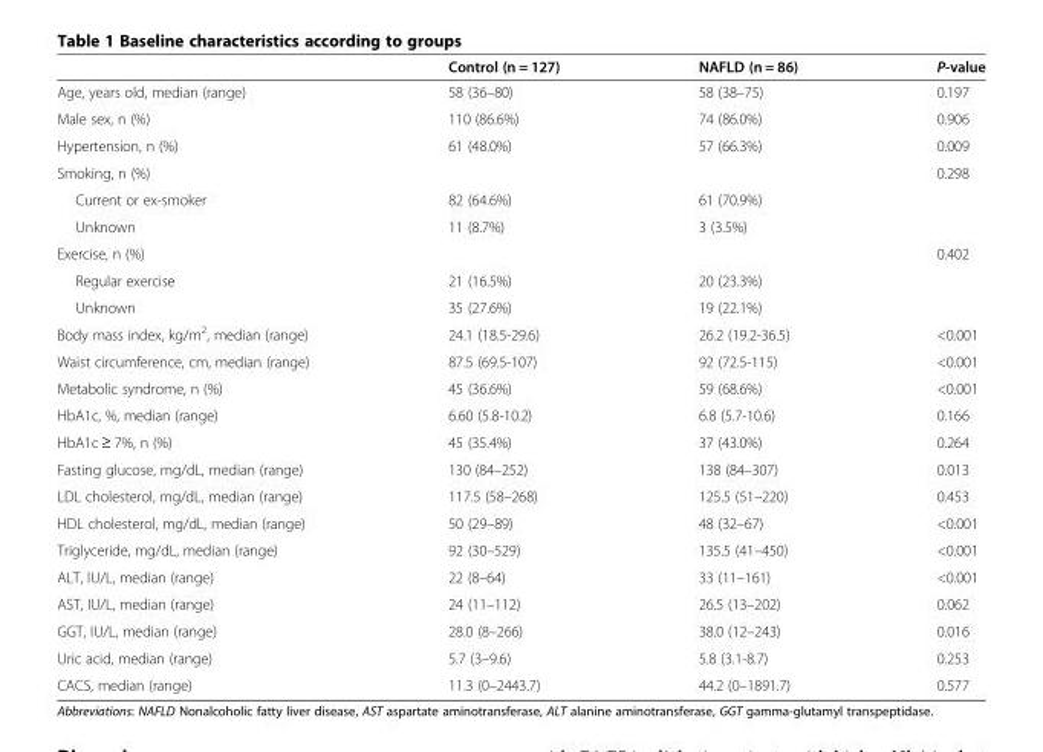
<table><thead><tr><td></td><td>Control (n = 127)</td><td>NAFLD (n = 86)</td><td>P-value</td></tr></thead><tbody><tr><td>Age, years old, median (range)</td><td>58 (36–80)</td><td>58 (38–75)</td><td>0.197</td></tr><tr><td>Male sex, n (%)</td><td>110 (86.6%)</td><td>74 (86.0%)</td><td>0.906</td></tr><tr><td>Hypertension, n (%)</td><td>61 (48.0%)</td><td>57 (66.3%)</td><td>0.009</td></tr><tr><td>Smoking, n (%)</td><td></td><td></td><td>0.298</td></tr><tr><td>Current or ex-smoker</td><td>82 (64.6%)</td><td>61 (70.9%)</td><td></td></tr><tr><td>Unknown</td><td>11 (8.7%)</td><td>3 (3.5%)</td><td></td></tr><tr><td>Exercise, n (%)</td><td></td><td></td><td>0.402</td></tr><tr><td>Regular exercise</td><td>21 (16.5%)</td><td>20 (23.3%)</td><td></td></tr><tr><td>Unknown</td><td>35 (27.6%)</td><td>19 (22.1%)</td><td></td></tr><tr><td>Body mass index, kg/m<sup>2</sup>, median (range)</td><td>24.1 (18.5-29.6)</td><td>26.2 (19.2-36.5)</td><td>&lt;0.001</td></tr><tr><td>Waist circumference, cm, median (range)</td><td>87.5 (69.5-107)</td><td>92 (72.5-115)</td><td>&lt;0.001</td></tr><tr><td>Metabolic syndrome, n (%)</td><td>45 (36.6%)</td><td>59 (68.6%)</td><td>&lt;0.001</td></tr><tr><td>HbA1c, %, median (range)</td><td>6.60 (5.8-10.2)</td><td>6.8 (5.7-10.6)</td><td>0.166</td></tr><tr><td>HbA1c ≥ 7%, n (%)</td><td>45 (35.4%)</td><td>37 (43.0%)</td><td>0.264</td></tr><tr><td>Fasting glucose, mg/dL, median (range)</td><td>130 (84–252)</td><td>138 (84–307)</td><td>0.013</td></tr><tr><td>LDL cholesterol, mg/dL, median (range)</td><td>117.5 (58–268)</td><td>125.5 (51–220)</td><td>0.453</td></tr><tr><td>HDL cholesterol, mg/dL, median (range)</td><td>50 (29–89)</td><td>48 (32–67)</td><td>&lt;0.001</td></tr><tr><td>Triglyceride, mg/dL, median (range)</td><td>92 (30–529)</td><td>135.5 (41–450)</td><td>&lt;0.001</td></tr><tr><td>ALT, IU/L, median (range)</td><td>22 (8–64)</td><td>33 (11–161)</td><td>&lt;0.001</td></tr><tr><td>AST, IU/L, median (range)</td><td>24 (11–112)</td><td>26.5 (13–202)</td><td>0.062</td></tr><tr><td>GGT, IU/L, median (range)</td><td>28.0 (8–266)</td><td>38.0 (12–243)</td><td>0.016</td></tr><tr><td>Uric acid, median (range)</td><td>5.7 (3–9.6)</td><td>5.8 (3.1-8.7)</td><td>0.253</td></tr><tr><td>CACS, median (range)</td><td>11.3 (0–2443.7)</td><td>44.2 (0–1891.7)</td><td>0.577</td></tr></tbody></table>